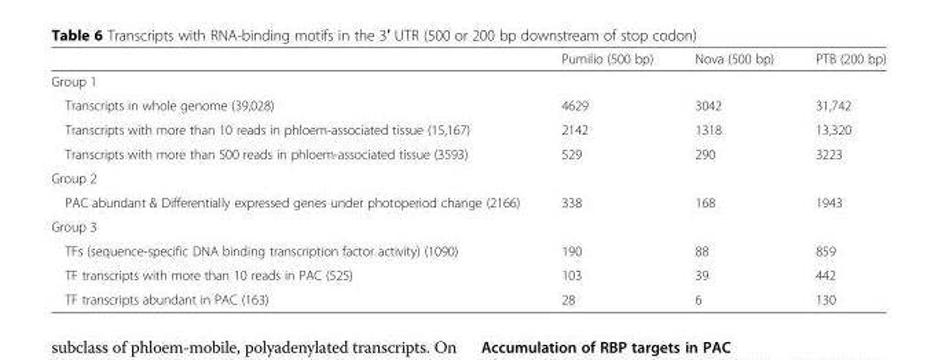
<table><thead><tr><td></td><td>Pumilio (500 bp)</td><td>Nova (500 bp)</td><td>PTB (200 bp)</td></tr></thead><tbody><tr><td colspan="4">Group 1</td></tr><tr><td>Transcripts in whole genome (39,028)</td><td>4629</td><td>3042</td><td>31,742</td></tr><tr><td>Transcripts with more than 10 reads in phloem-associated tissue (15,167)</td><td>2142</td><td>1318</td><td>13,320</td></tr><tr><td>Transcripts with more than 500 reads in phloem-associated tissue (3593)</td><td>529</td><td>290</td><td>3223</td></tr><tr><td colspan="4">Group 2</td></tr><tr><td>PAC abundant &amp; Differentially expressed genes under photoperiod change (2166)</td><td>338</td><td>168</td><td>1943</td></tr><tr><td colspan="4">Group 3</td></tr><tr><td>TFs (sequence-specific DNA binding transcription factor activity) (1090)</td><td>190</td><td>88</td><td>859</td></tr><tr><td>TF transcripts with more than 10 reads in PAC (525)</td><td>103</td><td>39</td><td>442</td></tr><tr><td>TF transcripts abundant in PAC (163)</td><td>28</td><td>6</td><td>130</td></tr></tbody></table>